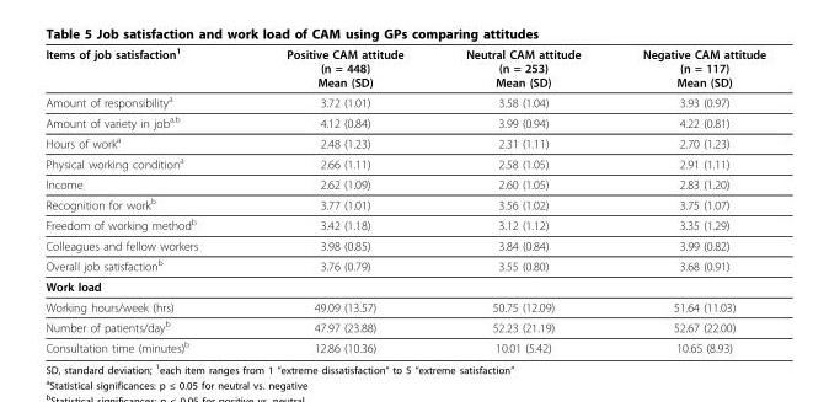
<table><thead><tr><td>Items of job satisfaction<sup>1</sup></td><td>Positive CAM attitude (n = 448) Mean (SD)</td><td>Neutral CAM attitude (n = 253) Mean (SD)</td><td>Negative CAM attitude (n = 117) Mean (SD)</td></tr></thead><tbody><tr><td>Amount of responsibility<sup>a</sup></td><td>3.72 (1.01)</td><td>3.58 (1.04)</td><td>3.93 (0.97)</td></tr><tr><td>Amount of variety in job<sup>a,b</sup></td><td>4.12 (0.84)</td><td>3.99 (0.94)</td><td>4.22 (0.81)</td></tr><tr><td>Hours of work<sup>a</sup></td><td>2.48 (1.23)</td><td>2.31 (1.11)</td><td>2.70 (1.23)</td></tr><tr><td>Physical working condition<sup>a</sup></td><td>2.66 (1.11)</td><td>2.58 (1.05)</td><td>2.91 (1.11)</td></tr><tr><td>Income</td><td>2.62 (1.09)</td><td>2.60 (1.05)</td><td>2.83 (1.20)</td></tr><tr><td>Recognition for work<sup>b</sup></td><td>3.77 (1.01)</td><td>3.56 (1.02)</td><td>3.75 (1.07)</td></tr><tr><td>Freedom of working method<sup>b</sup></td><td>3.42 (1.18)</td><td>3.12 (1.12)</td><td>3.35 (1.29)</td></tr><tr><td>Colleagues and fellow workers</td><td>3.98 (0.85)</td><td>3.84 (0.84)</td><td>3.99 (0.82)</td></tr><tr><td>Overall job satisfaction<sup>b</sup></td><td>3.76 (0.79)</td><td>3.55 (0.80)</td><td>3.68 (0.91)</td></tr><tr><td colspan="4">Work load</td></tr><tr><td>Working hours/week (hrs)</td><td>49.09 (13.57)</td><td>50.75 (12.09)</td><td>51.64 (11.03)</td></tr><tr><td>Number of patients/day<sup>b</sup></td><td>47.97 (23.88)</td><td>52.23 (21.19)</td><td>52.67 (22.00)</td></tr><tr><td>Consultation time (minutes)<sup>b</sup></td><td>12.86 (10.36)</td><td>10.01 (5.42)</td><td>10.65 (8.93)</td></tr></tbody></table>